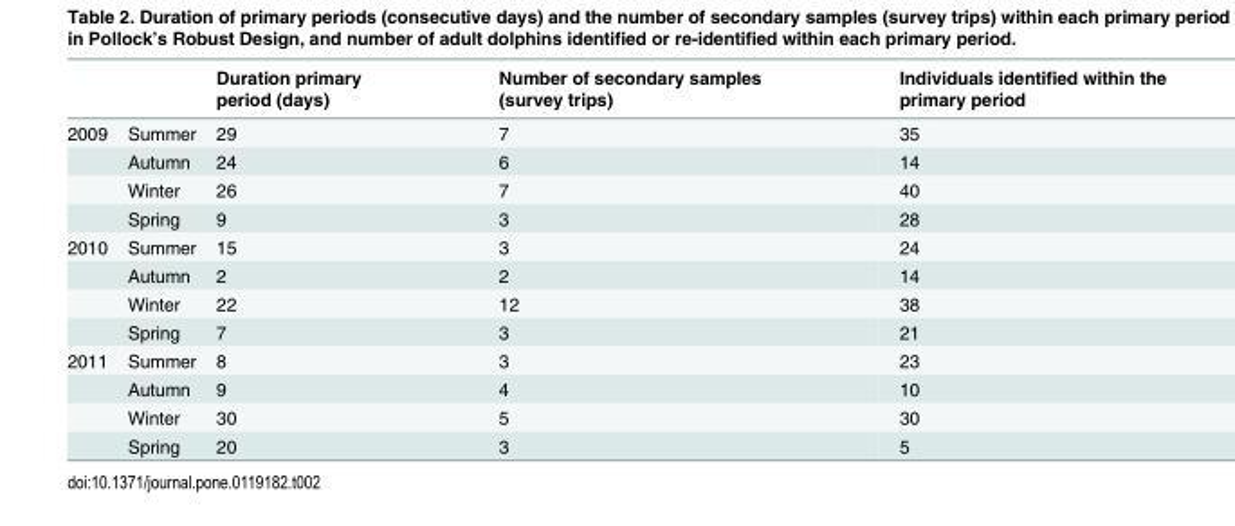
<table><thead><tr><td></td><td></td><td>Duration primary period (days)</td><td>Number of secondary samples (survey trips)</td><td>Individuals identified within the primary period</td></tr></thead><tbody><tr><td rowspan="4">2009</td><td>Summer</td><td>29</td><td>7</td><td>35</td></tr><tr><td>Autumn</td><td>24</td><td>6</td><td>14</td></tr><tr><td>Winter</td><td>26</td><td>7</td><td>40</td></tr><tr><td>Spring</td><td>9</td><td>3</td><td>28</td></tr><tr><td rowspan="4">2010</td><td>Summer</td><td>15</td><td>3</td><td>24</td></tr><tr><td>Autumn</td><td>2</td><td>2</td><td>14</td></tr><tr><td>Winter</td><td>22</td><td>12</td><td>38</td></tr><tr><td>Spring</td><td>7</td><td>3</td><td>21</td></tr><tr><td rowspan="4">2011</td><td>Summer</td><td>8</td><td>3</td><td>23</td></tr><tr><td>Autumn</td><td>9</td><td>4</td><td>10</td></tr><tr><td>Winter</td><td>30</td><td>5</td><td>30</td></tr><tr><td>Spring</td><td>20</td><td>3</td><td>5</td></tr></tbody></table>